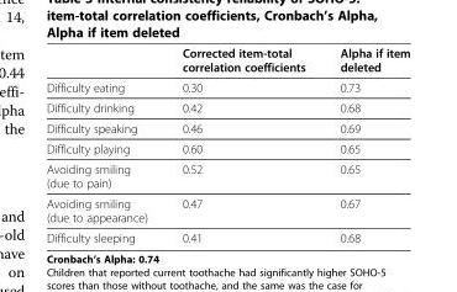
<table><thead><tr><td></td><td>Corrected item-total correlation coefficients</td><td>Alpha if item deleted</td></tr></thead><tbody><tr><td>Difficulty eating</td><td>0.30</td><td>0.73</td></tr><tr><td>Difficulty drinking</td><td>0.42</td><td>0.68</td></tr><tr><td>Difficulty speaking</td><td>0.46</td><td>0.69</td></tr><tr><td>Difficulty playing</td><td>0.60</td><td>0.65</td></tr><tr><td>Avoiding smiling (due to pain)</td><td>0.52</td><td>0.65</td></tr><tr><td>Avoiding smiling (due to appearance)</td><td>0.47</td><td>0.67</td></tr><tr><td>Difficulty sleeping</td><td>0.41</td><td>0.68</td></tr></tbody></table>